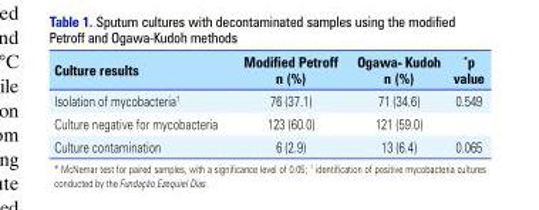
<table><thead><tr><td>Culture results</td><td>Modified Petroff n (%)</td><td>Ogawa- Kudoh n (%)</td><td>*p value</td></tr></thead><tbody><tr><td>Isolation of mycobacteria†</td><td>76 (37.1)</td><td>71 (34.6)</td><td>0.549</td></tr><tr><td>Culture negative for mycobacteria</td><td>123 (60.0)</td><td>121 (59.0)</td><td></td></tr><tr><td>Culture contamination</td><td>6 (2.9)</td><td>13 (6.4)</td><td>0.065</td></tr></tbody></table>